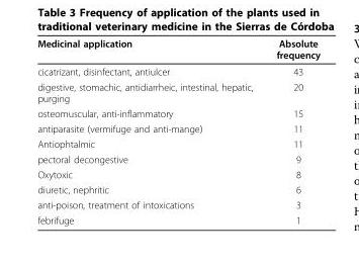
<table><thead><tr><td>Medicinal application</td><td>Absolute frequency</td></tr></thead><tbody><tr><td>cicatrizant, disinfectant, antiulcer</td><td>43</td></tr><tr><td>digestive, stomachic, antidiarrheic, intestinal, hepatic, purging</td><td>20</td></tr><tr><td>osteomuscular, anti-inflammatory</td><td>15</td></tr><tr><td>antiparasite (vermifuge and anti-mange)</td><td>11</td></tr><tr><td>Antiophtalmic</td><td>11</td></tr><tr><td>pectoral decongestive</td><td>9</td></tr><tr><td>Oxytoxic</td><td>8</td></tr><tr><td>diuretic, nephritic</td><td>6</td></tr><tr><td>anti-poison, treatment of intoxications</td><td>3</td></tr><tr><td>febrifuge</td><td>1</td></tr></tbody></table>